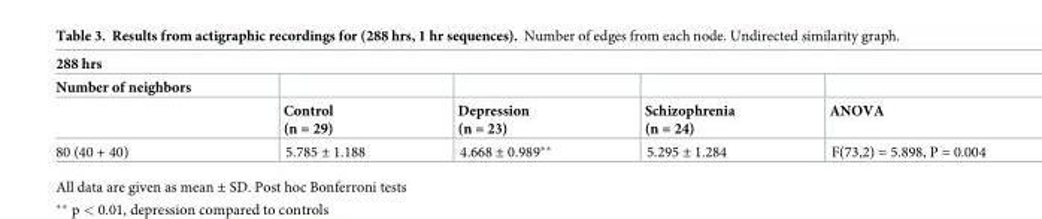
<table><thead><tr><td colspan="5">288 hrs</td></tr><tr><td rowspan="2">Number of neighbors</td><td rowspan="2">Control (n = 29)</td><td rowspan="2">Depression (n = 23)</td><td rowspan="2">Schizophrenia (n = 24)</td><td rowspan="2">ANOVA</td></tr><tr></tr></thead><tbody><tr><td>80 (40 + 40)</td><td>5.785 ± 1.188</td><td>4.668 ± 0.989**</td><td>5.295 ± 1.284</td><td>F(73,2) = 5.898, P = 0.004</td></tr></tbody></table>